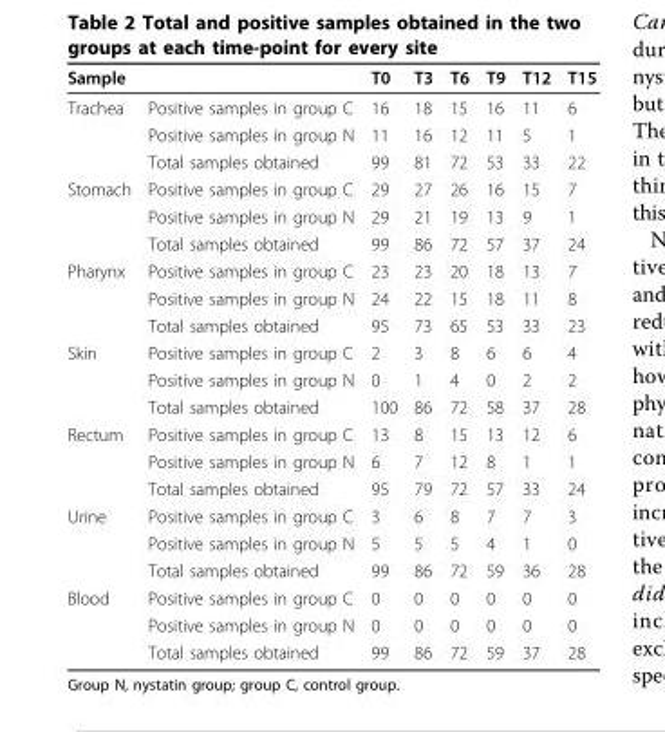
<table><thead><tr><td>Sample</td><td></td><td>T0</td><td>T3</td><td>T6</td><td>T9</td><td>T12</td><td>T15</td></tr></thead><tbody><tr><td rowspan="3">Trachea</td><td>Positive samples in group C</td><td>16</td><td>18</td><td>15</td><td>16</td><td>11</td><td>6</td></tr><tr><td>Positive samples in group N</td><td>11</td><td>16</td><td>12</td><td>11</td><td>5</td><td>1</td></tr><tr><td>Total samples obtained</td><td>99</td><td>81</td><td>72</td><td>53</td><td>33</td><td>22</td></tr><tr><td rowspan="3">Stomach</td><td>Positive samples in group C</td><td>29</td><td>27</td><td>26</td><td>16</td><td>15</td><td>7</td></tr><tr><td>Positive samples in group N</td><td>29</td><td>21</td><td>19</td><td>13</td><td>9</td><td>1</td></tr><tr><td>Total samples obtained</td><td>99</td><td>86</td><td>72</td><td>57</td><td>37</td><td>24</td></tr><tr><td rowspan="3">Pharynx</td><td>Positive samples in group C</td><td>23</td><td>23</td><td>20</td><td>18</td><td>13</td><td>7</td></tr><tr><td>Positive samples in group N</td><td>24</td><td>22</td><td>15</td><td>18</td><td>11</td><td>8</td></tr><tr><td>Total samples obtained</td><td>95</td><td>73</td><td>65</td><td>53</td><td>33</td><td>23</td></tr><tr><td rowspan="3">Skin</td><td>Positive samples in group C</td><td>2</td><td>3</td><td>8</td><td>6</td><td>6</td><td>4</td></tr><tr><td>Positive samples in group N</td><td>0</td><td>1</td><td>4</td><td>0</td><td>2</td><td>2</td></tr><tr><td>Total samples obtained</td><td>100</td><td>86</td><td>72</td><td>58</td><td>37</td><td>28</td></tr><tr><td rowspan="3">Rectum</td><td>Positive samples in group C</td><td>13</td><td>8</td><td>15</td><td>13</td><td>12</td><td>6</td></tr><tr><td>Positive samples in group N</td><td>6</td><td>7</td><td>12</td><td>8</td><td>1</td><td>1</td></tr><tr><td>Total samples obtained</td><td>95</td><td>79</td><td>72</td><td>57</td><td>33</td><td>24</td></tr><tr><td rowspan="3">Urine</td><td>Positive samples in group C</td><td>3</td><td>6</td><td>8</td><td>7</td><td>7</td><td>3</td></tr><tr><td>Positive samples in group N</td><td>5</td><td>5</td><td>5</td><td>4</td><td>1</td><td>0</td></tr><tr><td>Total samples obtained</td><td>99</td><td>86</td><td>72</td><td>59</td><td>36</td><td>28</td></tr><tr><td rowspan="3">Blood</td><td>Positive samples in group C</td><td>0</td><td>0</td><td>0</td><td>0</td><td>0</td><td>0</td></tr><tr><td>Positive samples in group N</td><td>0</td><td>0</td><td>0</td><td>0</td><td>0</td><td>0</td></tr><tr><td>Total samples obtained</td><td>99</td><td>86</td><td>72</td><td>59</td><td>37</td><td>28</td></tr></tbody></table>